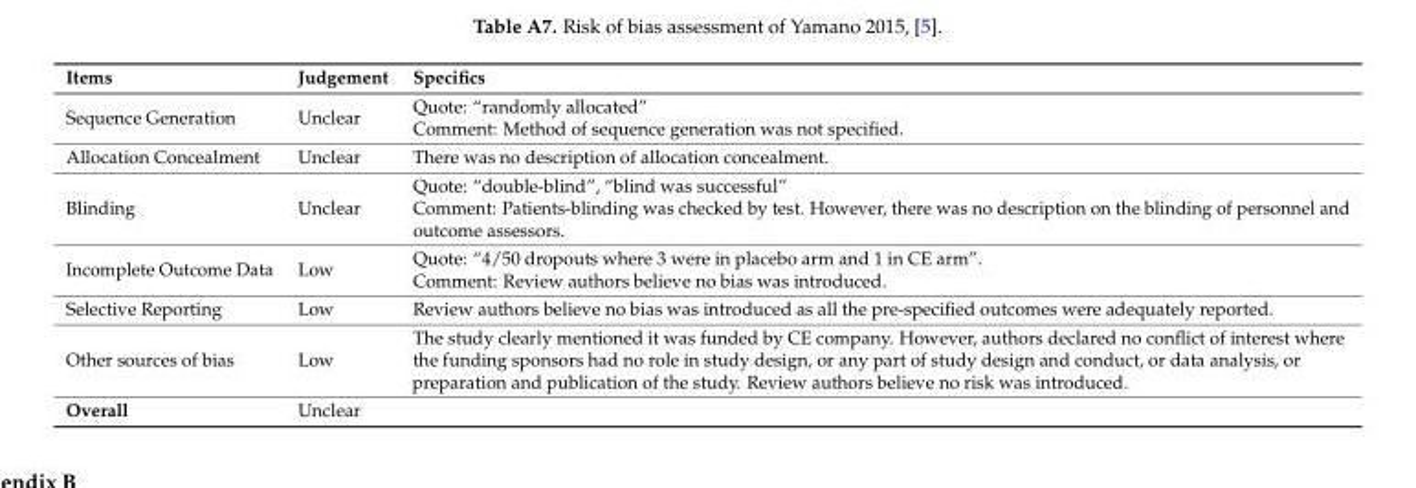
<table><thead><tr><td>Items</td><td>Judgement</td><td>Specifics</td></tr></thead><tbody><tr><td>Sequence Generation</td><td>Unclear</td><td>Quote: “randomly allocated” Comment: Method of sequence generation was not specified.</td></tr><tr><td>Allocation Concealment</td><td>Unclear</td><td>There was no description of allocation concealment.</td></tr><tr><td>Blinding</td><td>Unclear</td><td>Quote: “double-blind”, “blind was successful” Comment: Patients-blinding was checked by test. However, there was no description on the blinding of personnel and outcome assessors.</td></tr><tr><td>Incomplete Outcome Data</td><td>Low</td><td>Quote: “4/50 dropouts where 3 were in placebo arm and 1 in CE arm”. Comment: Review authors believe no bias was introduced.</td></tr><tr><td>Selective Reporting</td><td>Low</td><td>Review authors believe no bias was introduced as all the pre-specified outcomes were adequately reported.</td></tr><tr><td>Other sources of bias</td><td>Low</td><td>The study clearly mentioned it was funded by CE company. However, authors declared no conflict of interest where the funding sponsors had no role in study design, or any part of study design and conduct, or data analysis, or preparation and publication of the study. Review authors believe no risk was introduced.</td></tr><tr><td>Overall</td><td>Unclear</td><td></td></tr></tbody></table>